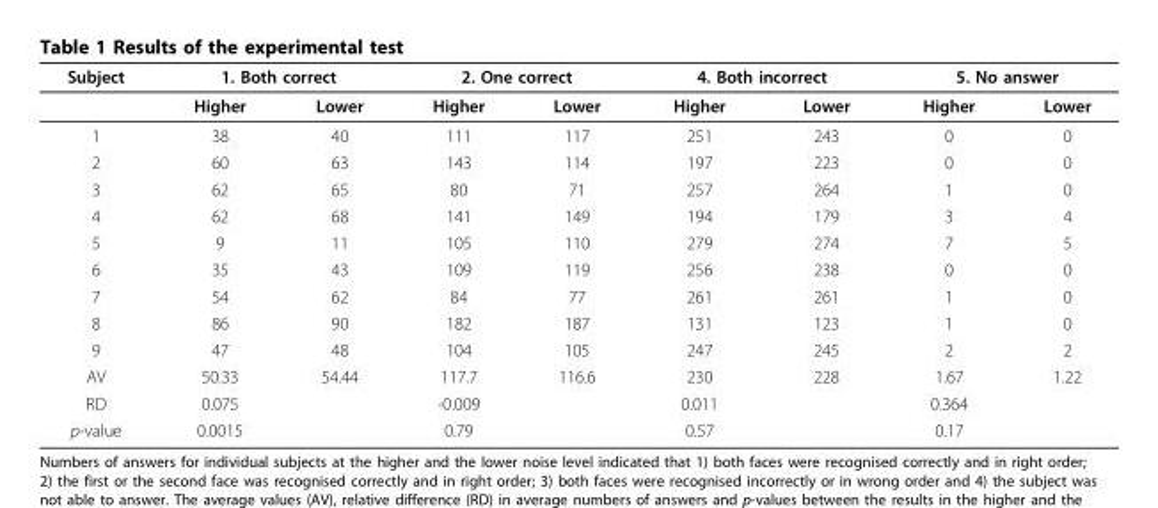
<table><thead><tr><td rowspan="2">Subject</td><td colspan="2">1. Both correct</td><td colspan="2">2. One correct</td><td colspan="2">4. Both incorrect</td><td colspan="2">5. No answer</td></tr><tr><td>Higher</td><td>Lower</td><td>Higher</td><td>Lower</td><td>Higher</td><td>Lower</td><td>Higher</td><td>Lower</td></tr></thead><tbody><tr><td>1</td><td>38</td><td>40</td><td>111</td><td>117</td><td>251</td><td>243</td><td>0</td><td>0</td></tr><tr><td>2</td><td>60</td><td>63</td><td>143</td><td>114</td><td>197</td><td>223</td><td>0</td><td>0</td></tr><tr><td>3</td><td>62</td><td>65</td><td>80</td><td>71</td><td>257</td><td>264</td><td>1</td><td>0</td></tr><tr><td>4</td><td>62</td><td>68</td><td>141</td><td>149</td><td>194</td><td>179</td><td>3</td><td>4</td></tr><tr><td>5</td><td>9</td><td>11</td><td>105</td><td>110</td><td>279</td><td>274</td><td>7</td><td>5</td></tr><tr><td>6</td><td>35</td><td>43</td><td>109</td><td>119</td><td>256</td><td>238</td><td>0</td><td>0</td></tr><tr><td>7</td><td>54</td><td>62</td><td>84</td><td>77</td><td>261</td><td>261</td><td>1</td><td>0</td></tr><tr><td>8</td><td>86</td><td>90</td><td>182</td><td>187</td><td>131</td><td>123</td><td>1</td><td>0</td></tr><tr><td>9</td><td>47</td><td>48</td><td>104</td><td>105</td><td>247</td><td>245</td><td>2</td><td>2</td></tr><tr><td>AV</td><td>50.33</td><td>54.44</td><td>117.7</td><td>116.6</td><td>230</td><td>228</td><td>1.67</td><td>1.22</td></tr><tr><td>RD</td><td>0.075</td><td></td><td>-0.009</td><td></td><td>0.011</td><td></td><td>0.364</td><td></td></tr><tr><td>p-value</td><td>0.0015</td><td></td><td>0.79</td><td></td><td>0.57</td><td></td><td>0.17</td><td></td></tr></tbody></table>